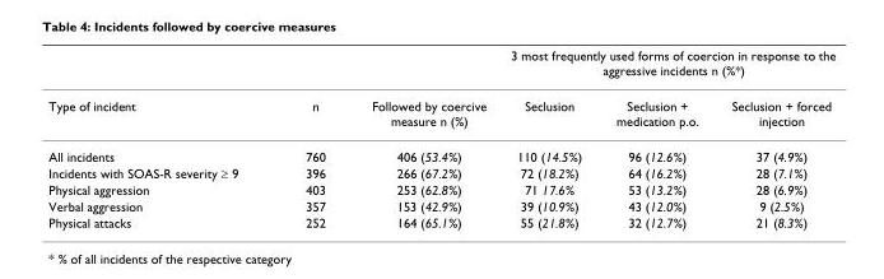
<table><thead><tr><td rowspan="2">Type of incident</td><td rowspan="2">n</td><td rowspan="2">Followed by coercive measure n (%)</td><td colspan="3">3 most frequently used forms of coercion in response to the aggressive incidents n (%*)</td></tr><tr><td>Seclusion</td><td>Seclusion + medication p.o.</td><td>Seclusion + forced injection</td></tr></thead><tbody><tr><td>All incidents</td><td>760</td><td>406 (53.4%)</td><td>110 (14.5%)</td><td>96 (12.6%)</td><td>37 (4.9%)</td></tr><tr><td>Incidents with SOAS-R severity ≥ 9</td><td>396</td><td>266 (67.2%)</td><td>72 (18.2%)</td><td>64 (16.2%)</td><td>28 (7.1%)</td></tr><tr><td>Physical aggression</td><td>403</td><td>253 (62.8%)</td><td>71 17.6%</td><td>53 (13.2%)</td><td>28 (6.9%)</td></tr><tr><td>Verbal aggression</td><td>357</td><td>153 (42.9%)</td><td>39 (10.9%)</td><td>43 (12.0%)</td><td>9 (2.5%)</td></tr><tr><td>Physical attacks</td><td>252</td><td>164 (65.1%)</td><td>55 (21.8%)</td><td>32 (12.7%)</td><td>21 (8.3%)</td></tr></tbody></table>